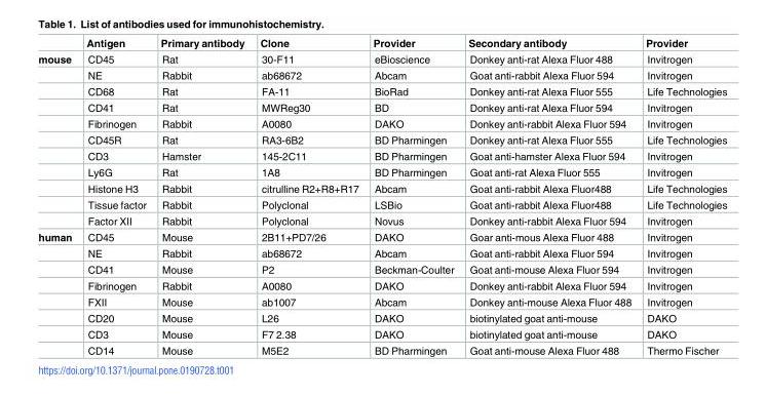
<table><thead><tr><td></td><td>Antigen</td><td>Primary antibody</td><td>Clone</td><td>Provider</td><td>Secondary antibody</td><td>Provider</td></tr></thead><tbody><tr><td rowspan="11">mouse</td><td>CD45</td><td>Rat</td><td>30-F11</td><td>eBioscience</td><td>Donkey anti-rat Alexa Fluor 488</td><td>Invitrogen</td></tr><tr><td>NE</td><td>Rabbit</td><td>ab68672</td><td>Abcam</td><td>Goat anti-rabbit Alexa Fluor 594</td><td>Invitrogen</td></tr><tr><td>CD68</td><td>Rat</td><td>FA-11</td><td>BioRad</td><td>Donkey anti-rat Alexa Fluor 555</td><td>Life Technologies</td></tr><tr><td>CD41</td><td>Rat</td><td>MWReg30</td><td>BD</td><td>Donkey anti-rat Alexa Fluor 594</td><td>Invitrogen</td></tr><tr><td>Fibrinogen</td><td>Rabbit</td><td>A0080</td><td>DAKO</td><td>Donkey anti-rabbit Alexa Fluor 594</td><td>Invitrogen</td></tr><tr><td>CD45R</td><td>Rat</td><td>RA3-6B2</td><td>BD Pharmingen</td><td>Donkey anti-rat Alexa Fluor 555</td><td>Life Technologies</td></tr><tr><td>CD3</td><td>Hamster</td><td>145-2C11</td><td>BD Pharmingen</td><td>Goat anti-hamster Alexa Fluor 594</td><td>Invitrogen</td></tr><tr><td>Ly6G</td><td>Rat</td><td>1A8</td><td>BD Pharmingen</td><td>Goat anti-rat Alexa Fluor 555</td><td>Invitrogen</td></tr><tr><td>Histone H3</td><td>Rabbit</td><td>citrulline R2+R8+R17</td><td>Abcam</td><td>Goat anti-rabbit Alexa Fluor488</td><td>Life Technologies</td></tr><tr><td>Tissue factor</td><td>Rabbit</td><td>Polyclonal</td><td>LSBio</td><td>Goat anti-rabbit Alexa Fluor488</td><td>Life Technologies</td></tr><tr><td>Factor XII</td><td>Rabbit</td><td>Polyclonal</td><td>Novus</td><td>Donkey anti-rabbit Alexa Fluor 594</td><td>Invitrogen</td></tr><tr><td rowspan="8">human</td><td>CD45</td><td>Mouse</td><td>2B11+PD7/26</td><td>DAKO</td><td>Goar anti-mous Alexa Fluor 488</td><td>Invitrogen</td></tr><tr><td>NE</td><td>Rabbit</td><td>ab68672</td><td>Abcam</td><td>Goat anti-rabbit Alexa Fluor 594</td><td>Invitrogen</td></tr><tr><td>CD41</td><td>Mouse</td><td>P2</td><td>Beckman-Coulter</td><td>Goat anti-mouse Alexa Fluor 594</td><td>Invitrogen</td></tr><tr><td>Fibrinogen</td><td>Rabbit</td><td>A0080</td><td>DAKO</td><td>Donkey anti-rabbit Alexa Fluor 594</td><td>Invitrogen</td></tr><tr><td>FXII</td><td>Mouse</td><td>ab1007</td><td>Abcam</td><td>Donkey anti-mouse Alexa Fluor 488</td><td>Invitrogen</td></tr><tr><td>CD20</td><td>Mouse</td><td>L26</td><td>DAKO</td><td>biotinylated goat anti-mouse</td><td>DAKO</td></tr><tr><td>CD3</td><td>Mouse</td><td>F7 2.38</td><td>DAKO</td><td>biotinylated goat anti-mouse</td><td>DAKO</td></tr><tr><td>CD14</td><td>Mouse</td><td>M5E2</td><td>BD Pharmingen</td><td>Goat anti-mouse Alexa Fluor 488</td><td>Thermo Fischer</td></tr></tbody></table>